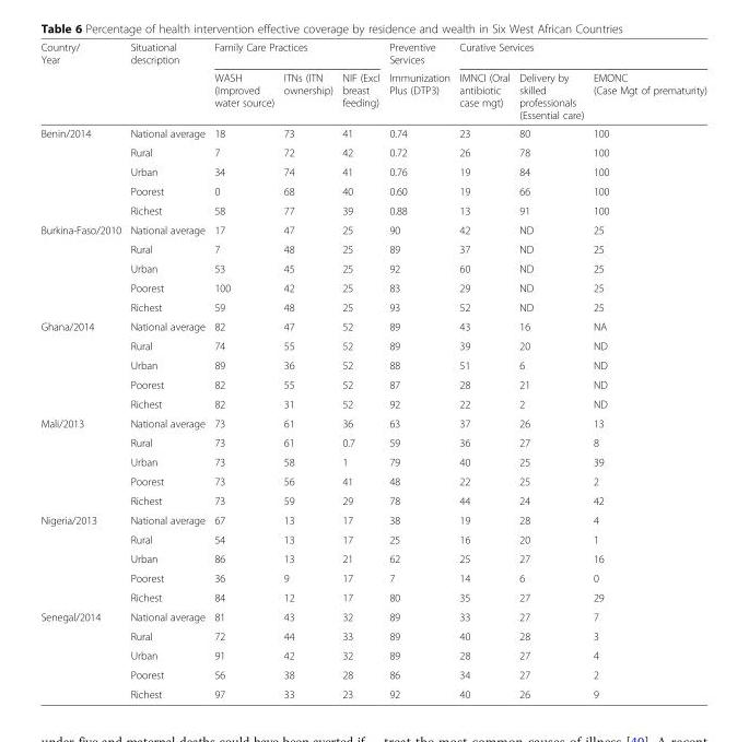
<table><thead><tr><td rowspan="2">Country/ Year</td><td rowspan="2">Situational description</td><td colspan="3">Family Care Practices</td><td rowspan="2">Preventive Services Immunization Plus (DTP3)</td><td colspan="3">Curative Services</td></tr><tr><td>WASH (Improved water source)</td><td>ITNs (ITN ownership)</td><td>NIF (Excl breast feeding)</td><td>IMNCI (Oral antibiotic case mgt)</td><td>Delivery by skilled professionals (Essential care)</td><td>EMONC (Case Mgt of prematurity)</td></tr></thead><tbody><tr><td rowspan="5">Benin/2014</td><td>National average</td><td>18</td><td>73</td><td>41</td><td>0.74</td><td>23</td><td>80</td><td>100</td></tr><tr><td>Rural</td><td>7</td><td>72</td><td>42</td><td>0.72</td><td>26</td><td>78</td><td>100</td></tr><tr><td>Urban</td><td>34</td><td>74</td><td>41</td><td>0.76</td><td>19</td><td>84</td><td>100</td></tr><tr><td>Poorest</td><td>0</td><td>68</td><td>40</td><td>0.60</td><td>19</td><td>66</td><td>100</td></tr><tr><td>Richest</td><td>58</td><td>77</td><td>39</td><td>0.88</td><td>13</td><td>91</td><td>100</td></tr><tr><td rowspan="5">Burkina-Faso/2010</td><td>National average</td><td>17</td><td>47</td><td>25</td><td>90</td><td>42</td><td>ND</td><td>25</td></tr><tr><td>Rural</td><td>7</td><td>48</td><td>25</td><td>89</td><td>37</td><td>ND</td><td>25</td></tr><tr><td>Urban</td><td>53</td><td>45</td><td>25</td><td>92</td><td>60</td><td>ND</td><td>25</td></tr><tr><td>Poorest</td><td>100</td><td>42</td><td>25</td><td>83</td><td>29</td><td>ND</td><td>25</td></tr><tr><td>Richest</td><td>59</td><td>48</td><td>25</td><td>93</td><td>52</td><td>ND</td><td>25</td></tr><tr><td rowspan="5">Ghana/2014</td><td>National average</td><td>82</td><td>47</td><td>52</td><td>89</td><td>43</td><td>16</td><td>NA</td></tr><tr><td>Rural</td><td>74</td><td>55</td><td>52</td><td>89</td><td>39</td><td>20</td><td>ND</td></tr><tr><td>Urban</td><td>89</td><td>36</td><td>52</td><td>88</td><td>51</td><td>6</td><td>ND</td></tr><tr><td>Poorest</td><td>82</td><td>55</td><td>52</td><td>87</td><td>28</td><td>21</td><td>ND</td></tr><tr><td>Richest</td><td>82</td><td>31</td><td>52</td><td>92</td><td>22</td><td>2</td><td>ND</td></tr><tr><td rowspan="5">Mali/2013</td><td>National average</td><td>73</td><td>61</td><td>36</td><td>63</td><td>37</td><td>26</td><td>13</td></tr><tr><td>Rural</td><td>73</td><td>61</td><td>0.7</td><td>59</td><td>36</td><td>27</td><td>8</td></tr><tr><td>Urban</td><td>73</td><td>58</td><td>1</td><td>79</td><td>40</td><td>25</td><td>39</td></tr><tr><td>Poorest</td><td>73</td><td>56</td><td>41</td><td>48</td><td>22</td><td>25</td><td>2</td></tr><tr><td>Richest</td><td>73</td><td>59</td><td>29</td><td>78</td><td>44</td><td>24</td><td>42</td></tr><tr><td rowspan="5">Nigeria/2013</td><td>National average</td><td>67</td><td>13</td><td>17</td><td>38</td><td>19</td><td>28</td><td>4</td></tr><tr><td>Rural</td><td>54</td><td>13</td><td>17</td><td>25</td><td>16</td><td>20</td><td>1</td></tr><tr><td>Urban</td><td>86</td><td>13</td><td>21</td><td>62</td><td>25</td><td>27</td><td>16</td></tr><tr><td>Poorest</td><td>36</td><td>9</td><td>17</td><td>7</td><td>14</td><td>6</td><td>0</td></tr><tr><td>Richest</td><td>84</td><td>12</td><td>17</td><td>80</td><td>35</td><td>27</td><td>29</td></tr><tr><td rowspan="5">Senegal/2014</td><td>National average</td><td>81</td><td>43</td><td>32</td><td>89</td><td>33</td><td>27</td><td>7</td></tr><tr><td>Rural</td><td>72</td><td>44</td><td>33</td><td>89</td><td>40</td><td>28</td><td>3</td></tr><tr><td>Urban</td><td>91</td><td>42</td><td>32</td><td>89</td><td>28</td><td>27</td><td>4</td></tr><tr><td>Poorest</td><td>56</td><td>38</td><td>28</td><td>86</td><td>34</td><td>27</td><td>2</td></tr><tr><td>Richest</td><td>97</td><td>33</td><td>23</td><td>92</td><td>40</td><td>26</td><td>9</td></tr></tbody></table>